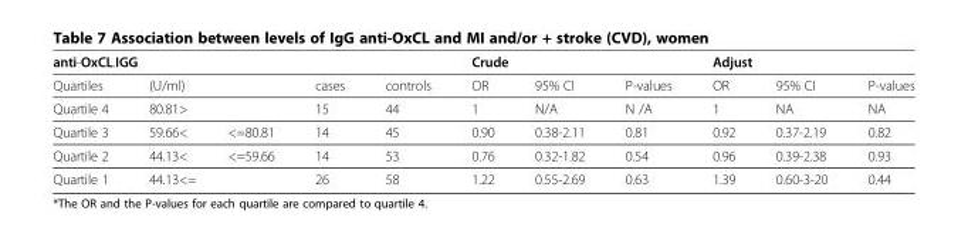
<table><thead><tr><td colspan="3">anti-OxCL.IGG</td><td rowspan="4">cases 15 14</td><td rowspan="4">controls 44 45</td><td colspan="3">Crude</td><td colspan="3">Adjust</td></tr><tr><td rowspan="3">Quartiles Quartile 4 Quartile 3</td><td rowspan="2" colspan="2">(U/ml) 80.81&gt;</td><td rowspan="3">OR 1 0.90</td><td rowspan="3">95% CI N/A 0.38-2.11</td><td rowspan="3">P-values N /A 0.81</td><td rowspan="3">OR 1 0.92</td><td rowspan="3">95% CI NA 0.37-2.19</td><td rowspan="3">P-values NA 0.82</td></tr><tr></tr><tr><td>59.66&lt;</td><td>&lt;=80.81</td></tr></thead><tbody><tr><td>Quartile 2</td><td>44.13&lt;</td><td>&lt;=59.66</td><td>14</td><td>53</td><td>0.76</td><td>0.32-1.82</td><td>0.54</td><td>0.96</td><td>0.39-2.38</td><td>0.93</td></tr><tr><td>Quartile 1</td><td colspan="2">44.13&lt;=</td><td>26</td><td>58</td><td>1.22</td><td>0.55-2.69</td><td>0.63</td><td>1.39</td><td>0.60-3-20</td><td>0.44</td></tr></tbody></table>